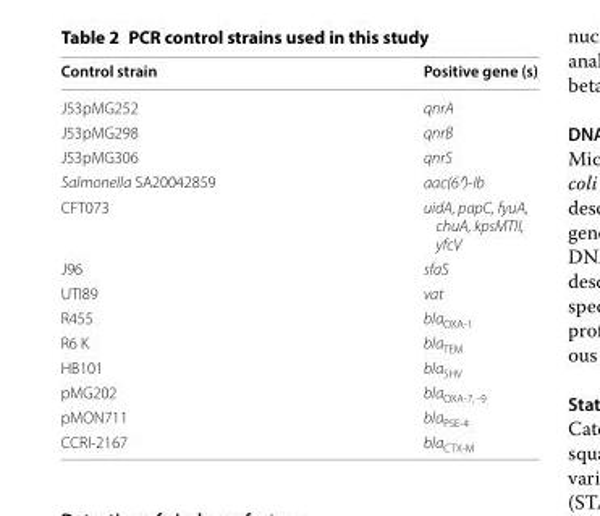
<table><thead><tr><td>Control strain</td><td>Positive gene (s)</td></tr></thead><tbody><tr><td>J53pMG252</td><td>qnrA</td></tr><tr><td>J53pMG298</td><td>qnrB</td></tr><tr><td>J53pMG306</td><td>qnrS</td></tr><tr><td>Salmonella SA20042859</td><td>aac(6′)‑Ib</td></tr><tr><td>CFT073</td><td>uidA, papC, fyuA, chuA, kpsMTII, yfcV</td></tr><tr><td>J96</td><td>sfaS</td></tr><tr><td>UTI89</td><td>vat</td></tr><tr><td>R455</td><td>bla<sub>OXA‑1</sub></td></tr><tr><td>R6 K</td><td>bla<sub>TEM</sub></td></tr><tr><td>HB101</td><td>bla<sub>SHV</sub></td></tr><tr><td>pMG202</td><td>bla<sub>OXA‑7, ‑9</sub></td></tr><tr><td>pMON711</td><td>bla<sub>PSE‑4</sub></td></tr><tr><td>CCRI‑2167</td><td>bla<sub>CTX‑M</sub></td></tr></tbody></table>